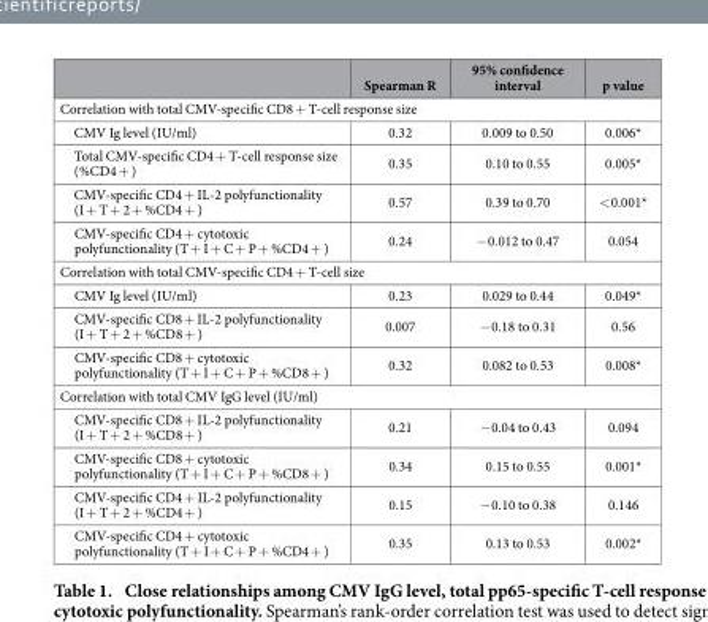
<table><thead><tr><td></td><td>Spearman R</td><td>95% confidence interval</td><td>p value</td></tr></thead><tbody><tr><td colspan="4">Correlation with total CMV-specific CD8 + T-cell response size</td></tr><tr><td>CMV Ig level (IU/ml)</td><td>0.32</td><td>0.009 to 0.50</td><td>0.006*</td></tr><tr><td>Total CMV-specific CD4 + T-cell response size (%CD4 + )</td><td>0.35</td><td>0.10 to 0.55</td><td>0.005*</td></tr><tr><td>CMV-specific CD4 + IL-2 polyfunctionality (I + T + 2 + %CD4 + )</td><td>0.57</td><td>0.39 to 0.70</td><td>&lt; 0.001*</td></tr><tr><td>CMV-specific CD4 + cytotoxic polyfunctionality (T + I + C + P + %CD4 + )</td><td>0.24</td><td>− 0.012 to 0.47</td><td>0.054</td></tr><tr><td colspan="4">Correlation with total CMV-specific CD4 + T-cell size</td></tr><tr><td>CMV Ig level (IU/ml)</td><td>0.23</td><td>0.029 to 0.44</td><td>0.049*</td></tr><tr><td>CMV-specific CD8 + IL-2 polyfunctionality (I + T + 2 + %CD8 + )</td><td>0.007</td><td>− 0.18 to 0.31</td><td>0.56</td></tr><tr><td>CMV-specific CD8 + cytotoxic polyfunctionality (T + I + C + P + %CD8 + )</td><td>0.32</td><td>0.082 to 0.53</td><td>0.008*</td></tr><tr><td colspan="4">Correlation with total CMV IgG level (IU/ml)</td></tr><tr><td>CMV-specific CD8 + IL-2 polyfunctionality (I + T + 2 + %CD8 + )</td><td>0.21</td><td>− 0.04 to 0.43</td><td>0.094</td></tr><tr><td>CMV-specific CD8 + cytotoxic polyfunctionality (T + I + C + P + %CD8 + )</td><td>0.34</td><td>0.15 to 0.55</td><td>0.001*</td></tr><tr><td>CMV-specific CD4 + IL-2 polyfunctionality (I + T + 2 + %CD4 + )</td><td>0.15</td><td>− 0.10 to 0.38</td><td>0.146</td></tr><tr><td>CMV-specific CD4 + cytotoxic polyfunctionality (T + I + C + P + %CD4 + )</td><td>0.35</td><td>0.13 to 0.53</td><td>0.002*</td></tr></tbody></table>